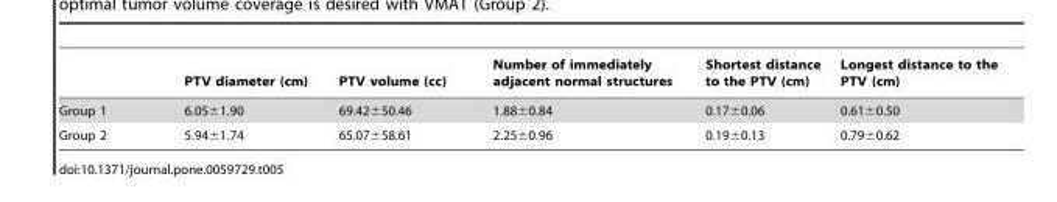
<table><thead><tr><td></td><td>PTV diameter (cm)</td><td>PTV volume (cc)</td><td>Number of immediately adjacent normal structures</td><td>Shortest distance to the PTV (cm)</td><td>Longest distance to the PTV (cm)</td></tr></thead><tbody><tr><td>Group 1</td><td>6.05±1.90</td><td>69.42±50.46</td><td>1.88±0.84</td><td>0.17±0.06</td><td>0.61±0.50</td></tr><tr><td>Group 2</td><td>5.94±1.74</td><td>65.07±58.61</td><td>2.25±0.96</td><td>0.19±0.13</td><td>0.79±0.62</td></tr></tbody></table>